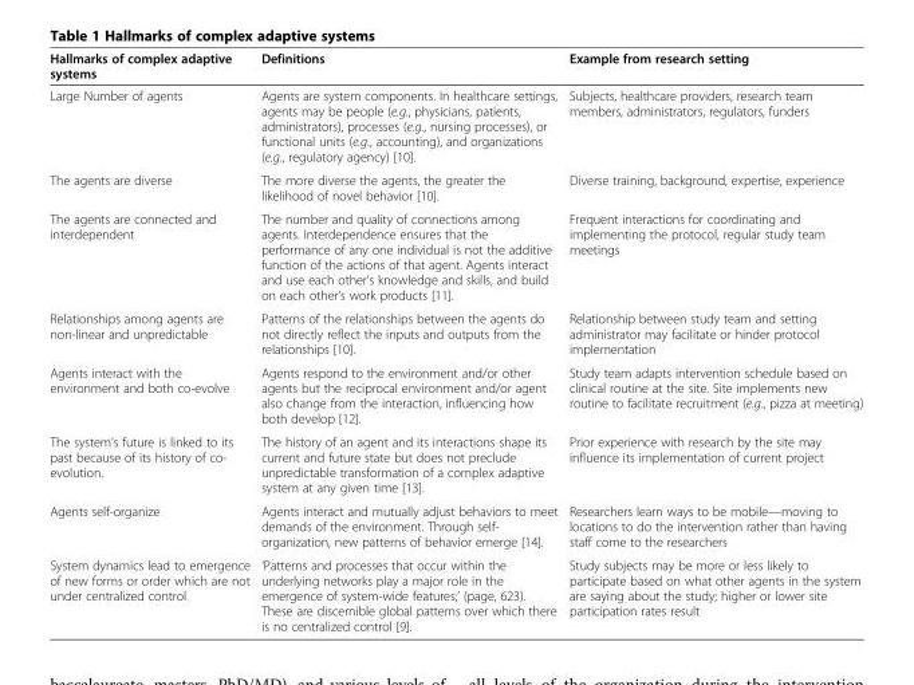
<table><thead><tr><td>Hallmarks of complex adaptive systems</td><td>Definitions</td><td>Example from research setting</td></tr></thead><tbody><tr><td>Large Number of agents</td><td>Agents are system components. In healthcare settings, agents may be people (e.g., physicians, patients, administrators), processes (e.g., nursing processes), or functional units (e.g., accounting), and organizations (e.g., regulatory agency) [10].</td><td>Subjects, healthcare providers, research team members, administrators, regulators, funders</td></tr><tr><td>The agents are diverse</td><td>The more diverse the agents, the greater the likelihood of novel behavior [10].</td><td>Diverse training, background, expertise, experience</td></tr><tr><td>The agents are connected and interdependent</td><td>The number and quality of connections among agents. Interdependence ensures that the performance of any one individual is not the additive function of the actions of that agent. Agents interact and use each other’s knowledge and skills, and build on each other’s work products [11].</td><td>Frequent interactions for coordinating and implementing the protocol, regular study team meetings</td></tr><tr><td>Relationships among agents are non-linear and unpredictable</td><td>Patterns of the relationships between the agents do not directly reflect the inputs and outputs from the relationships [10].</td><td>Relationship between study team and setting administrator may facilitate or hinder protocol implementation</td></tr><tr><td>Agents interact with the environment and both co-evolve</td><td>Agents respond to the environment and/or other agents but the reciprocal environment and/or agent also change from the interaction, influencing how both develop [12].</td><td>Study team adapts intervention schedule based on clinical routine at the site. Site implements new routine to facilitate recruitment (e.g., pizza at meeting)</td></tr><tr><td>The system’s future is linked to its past because of its history of co- evolution.</td><td>The history of an agent and its interactions shape its current and future state but does not preclude unpredictable transformation of a complex adaptive system at any given time [13].</td><td>Prior experience with research by the site may influence its implementation of current project</td></tr><tr><td>Agents self-organize</td><td>Agents interact and mutually adjust behaviors to meet demands of the environment. Through self- organization, new patterns of behavior emerge [14].</td><td>Researchers learn ways to be mobile—moving to locations to do the intervention rather than having staff come to the researchers</td></tr><tr><td>System dynamics lead to emergence of new forms or order which are not under centralized control</td><td>‘Patterns and processes that occur within the underlying networks play a major role in the emergence of system-wide features;’ (page, 623). These are discernible global patterns over which there is no centralized control [9].</td><td>Study subjects may be more or less likely to participate based on what other agents in the system are saying about the study; higher or lower site participation rates result</td></tr></tbody></table>